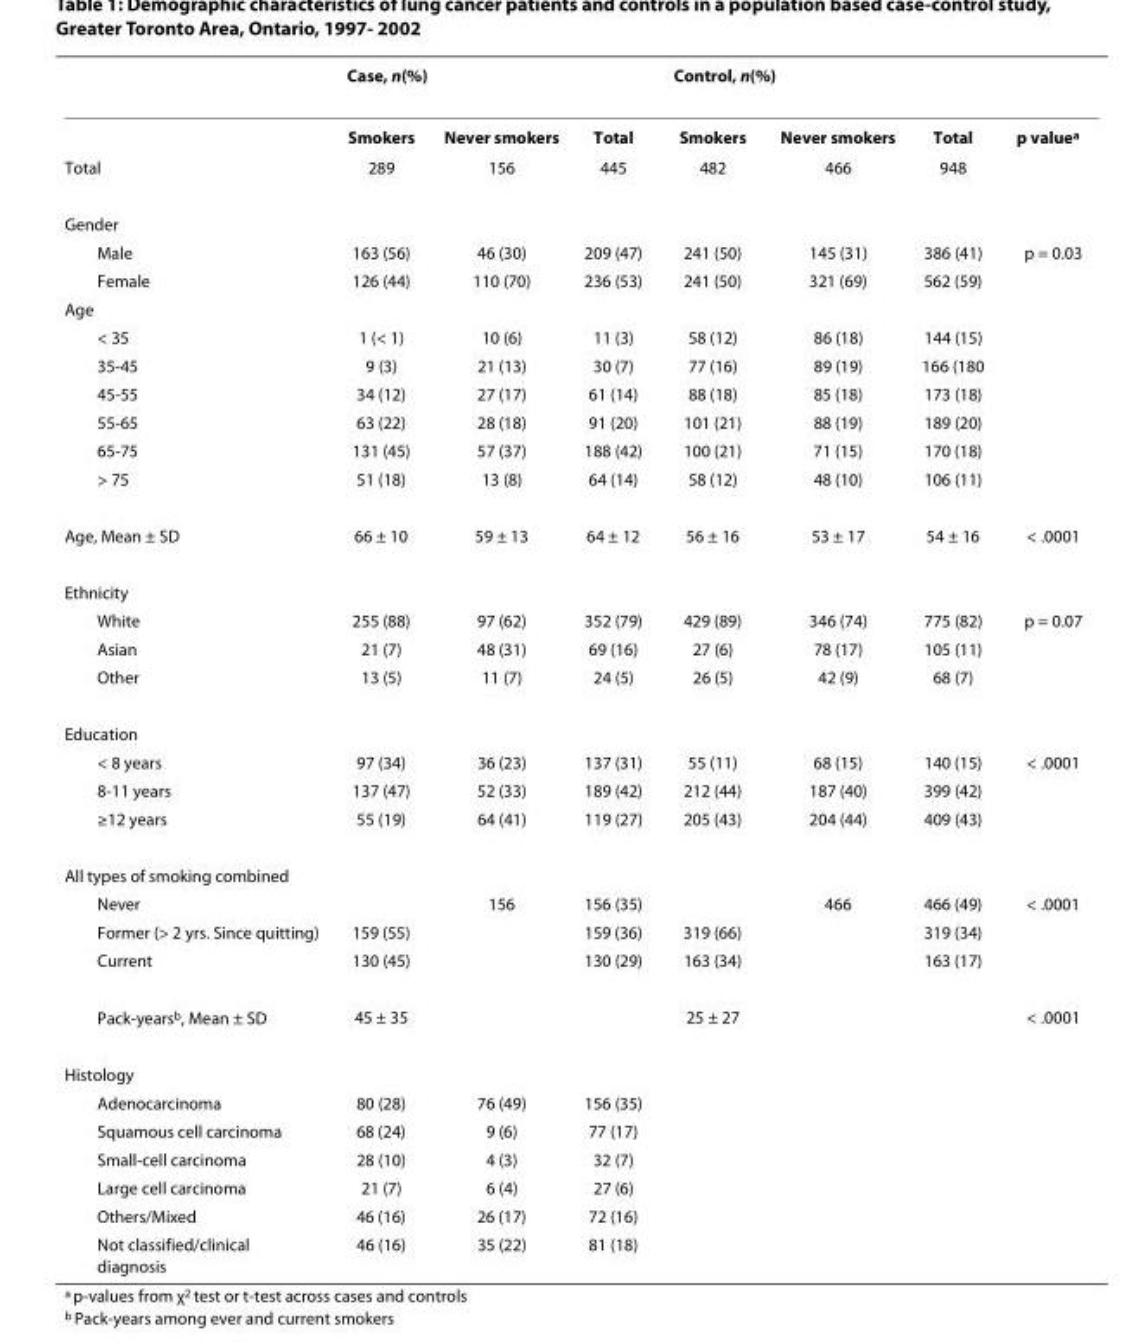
<table><thead><tr><td rowspan="2"></td><td colspan="3">Case, n(%)</td><td colspan="3">Control, n(%)</td><td rowspan="2">p value<sup>a</sup></td></tr><tr><td>Smokers</td><td>Never smokers</td><td>Total</td><td>Smokers</td><td>Never smokers</td><td>Total</td></tr></thead><tbody><tr><td>Total</td><td>289</td><td>156</td><td>445</td><td>482</td><td>466</td><td>948</td><td></td></tr><tr><td colspan="8">Gender</td></tr><tr><td>Male</td><td>163 (56)</td><td>46 (30)</td><td>209 (47)</td><td>241 (50)</td><td>145 (31)</td><td>386 (41)</td><td>p = 0.03</td></tr><tr><td>Female</td><td>126 (44)</td><td>110 (70)</td><td>236 (53)</td><td>241 (50)</td><td>321 (69)</td><td>562 (59)</td><td></td></tr><tr><td colspan="8">Age</td></tr><tr><td>&lt; 35</td><td>1 (&lt; 1)</td><td>10 (6)</td><td>11 (3)</td><td>58 (12)</td><td>86 (18)</td><td>144 (15)</td><td></td></tr><tr><td>35-45</td><td>9 (3)</td><td>21 (13)</td><td>30 (7)</td><td>77 (16)</td><td>89 (19)</td><td>166 (180</td><td></td></tr><tr><td>45-55</td><td>34 (12)</td><td>27 (17)</td><td>61 (14)</td><td>88 (18)</td><td>85 (18)</td><td>173 (18)</td><td></td></tr><tr><td>55-65</td><td>63 (22)</td><td>28 (18)</td><td>91 (20)</td><td>101 (21)</td><td>88 (19)</td><td>189 (20)</td><td></td></tr><tr><td>65-75</td><td>131 (45)</td><td>57 (37)</td><td>188 (42)</td><td>100 (21)</td><td>71 (15)</td><td>170 (18)</td><td></td></tr><tr><td>&gt; 75</td><td>51 (18)</td><td>13 (8)</td><td>64 (14)</td><td>58 (12)</td><td>48 (10)</td><td>106 (11)</td><td></td></tr><tr><td>Age, Mean ± SD</td><td>66 ± 10</td><td>59 ± 13</td><td>64 ± 12</td><td>56 ± 16</td><td>53 ± 17</td><td>54 ± 16</td><td>&lt; .0001</td></tr><tr><td colspan="8">Ethnicity</td></tr><tr><td>White</td><td>255 (88)</td><td>97 (62)</td><td>352 (79)</td><td>429 (89)</td><td>346 (74)</td><td>775 (82)</td><td>p = 0.07</td></tr><tr><td>Asian</td><td>21 (7)</td><td>48 (31)</td><td>69 (16)</td><td>27 (6)</td><td>78 (17)</td><td>105 (11)</td><td></td></tr><tr><td>Other</td><td>13 (5)</td><td>11 (7)</td><td>24 (5)</td><td>26 (5)</td><td>42 (9)</td><td>68 (7)</td><td></td></tr><tr><td colspan="8">Education</td></tr><tr><td>&lt; 8 years</td><td>97 (34)</td><td>36 (23)</td><td>137 (31)</td><td>55 (11)</td><td>68 (15)</td><td>140 (15)</td><td>&lt; .0001</td></tr><tr><td>8-11 years</td><td>137 (47)</td><td>52 (33)</td><td>189 (42)</td><td>212 (44)</td><td>187 (40)</td><td>399 (42)</td><td></td></tr><tr><td>≥12 years</td><td>55 (19)</td><td>64 (41)</td><td>119 (27)</td><td>205 (43)</td><td>204 (44)</td><td>409 (43)</td><td></td></tr><tr><td colspan="8">All types of smoking combined</td></tr><tr><td>Never</td><td></td><td>156</td><td>156 (35)</td><td></td><td>466</td><td>466 (49)</td><td>&lt; .0001</td></tr><tr><td>Former (&gt; 2 yrs. Since quitting)</td><td>159 (55)</td><td></td><td>159 (36)</td><td>319 (66)</td><td></td><td>319 (34)</td><td></td></tr><tr><td>Current</td><td>130 (45)</td><td></td><td>130 (29)</td><td>163 (34)</td><td></td><td>163 (17)</td><td></td></tr><tr><td>Pack-years<sup>b</sup>, Mean ± SD</td><td>45 ± 35</td><td></td><td></td><td>25 ± 27</td><td></td><td></td><td>&lt; .0001</td></tr><tr><td colspan="8">Histology</td></tr><tr><td>Adenocarcinoma</td><td>80 (28)</td><td>76 (49)</td><td>156 (35)</td><td></td><td></td><td></td><td></td></tr><tr><td>Squamous cell carcinoma</td><td>68 (24)</td><td>9 (6)</td><td>77 (17)</td><td></td><td></td><td></td><td></td></tr><tr><td>Small-cell carcinoma</td><td>28 (10)</td><td>4 (3)</td><td>32 (7)</td><td></td><td></td><td></td><td></td></tr><tr><td>Large cell carcinoma</td><td>21 (7)</td><td>6 (4)</td><td>27 (6)</td><td></td><td></td><td></td><td></td></tr><tr><td>Others/Mixed</td><td>46 (16)</td><td>26 (17)</td><td>72 (16)</td><td></td><td></td><td></td><td></td></tr><tr><td>Not classified/clinical diagnosis</td><td>46 (16)</td><td>35 (22)</td><td>81 (18)</td><td></td><td></td><td></td><td></td></tr></tbody></table>